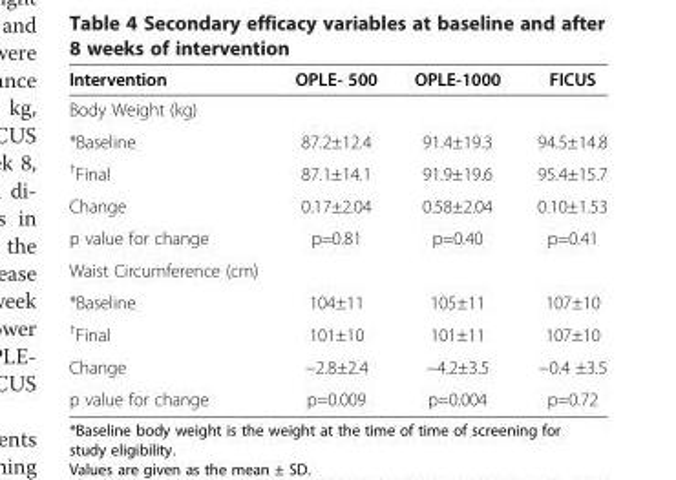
<table><thead><tr><td>Intervention</td><td>OPLE- 500</td><td>OPLE-1000</td><td>FICUS</td></tr></thead><tbody><tr><td colspan="4">Body Weight (kg)</td></tr><tr><td>*Baseline</td><td>87.2±12.4</td><td>91.4±19.3</td><td>94.5±14.8</td></tr><tr><td><sup>†</sup>Final</td><td>87.1±14.1</td><td>91.9±19.6</td><td>95.4±15.7</td></tr><tr><td>Change</td><td>0.17±2.04</td><td>0.58±2.04</td><td>0.10±1.53</td></tr><tr><td>p value for change</td><td>p=0.81</td><td>p=0.40</td><td>p=0.41</td></tr><tr><td colspan="4">Waist Circumference (cm)</td></tr><tr><td>*Baseline</td><td>104±11</td><td>105±11</td><td>107±10</td></tr><tr><td><sup>†</sup>Final</td><td>101±10</td><td>101±11</td><td>107±10</td></tr><tr><td>Change</td><td>−2.8±2.4</td><td>−4.2±3.5</td><td>−0.4 ±3.5</td></tr><tr><td>p value for change</td><td>p=0.009</td><td>p=0.004</td><td>p=0.72</td></tr></tbody></table>